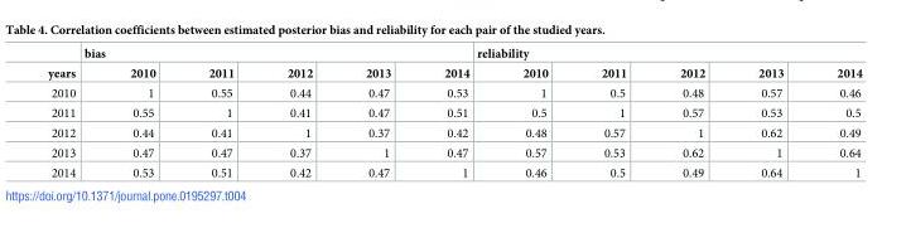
<table><thead><tr><td rowspan="2">years</td><td colspan="5">bias</td><td colspan="5">reliability</td></tr><tr><td>2010</td><td>2011</td><td>2012</td><td>2013</td><td>2014</td><td>2010</td><td>2011</td><td>2012</td><td>2013</td><td>2014</td></tr></thead><tbody><tr><td>2010</td><td>1</td><td>0.55</td><td>0.44</td><td>0.47</td><td>0.53</td><td>1</td><td>0.5</td><td>0.48</td><td>0.57</td><td>0.46</td></tr><tr><td>2011</td><td>0.55</td><td>1</td><td>0.41</td><td>0.47</td><td>0.51</td><td>0.5</td><td>1</td><td>0.57</td><td>0.53</td><td>0.5</td></tr><tr><td>2012</td><td>0.44</td><td>0.41</td><td>1</td><td>0.37</td><td>0.42</td><td>0.48</td><td>0.57</td><td>1</td><td>0.62</td><td>0.49</td></tr><tr><td>2013</td><td>0.47</td><td>0.47</td><td>0.37</td><td>1</td><td>0.47</td><td>0.57</td><td>0.53</td><td>0.62</td><td>1</td><td>0.64</td></tr><tr><td>2014</td><td>0.53</td><td>0.51</td><td>0.42</td><td>0.47</td><td>1</td><td>0.46</td><td>0.5</td><td>0.49</td><td>0.64</td><td>1</td></tr></tbody></table>